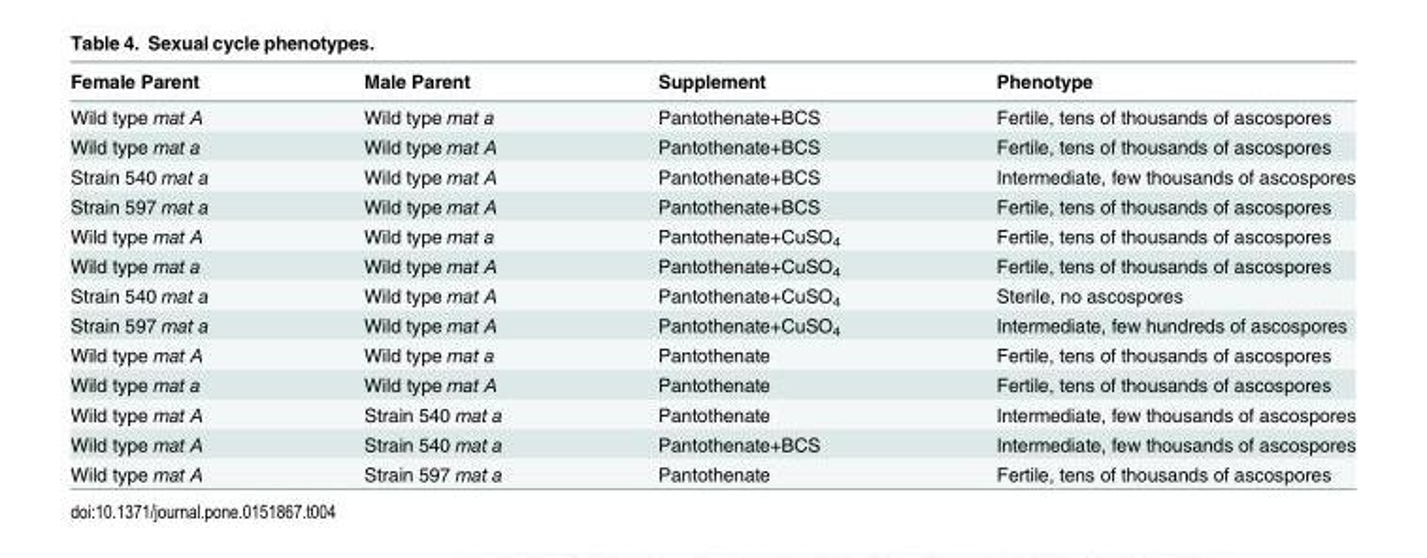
<table><thead><tr><td>Female Parent</td><td>Male Parent</td><td>Supplement</td><td>Phenotype</td></tr></thead><tbody><tr><td>Wild type mat A</td><td>Wild type mat a</td><td>Pantothenate+BCS</td><td>Fertile, tens of thousands of ascospores</td></tr><tr><td>Wild type mat a</td><td>Wild type mat A</td><td>Pantothenate+BCS</td><td>Fertile, tens of thousands of ascospores</td></tr><tr><td>Strain 540 mat a</td><td>Wild type mat A</td><td>Pantothenate+BCS</td><td>Intermediate, few thousands of ascospores</td></tr><tr><td>Strain 597 mat a</td><td>Wild type mat A</td><td>Pantothenate+BCS</td><td>Fertile, tens of thousands of ascospores</td></tr><tr><td>Wild type mat A</td><td>Wild type mat a</td><td>Pantothenate+CuSO<sub>4</sub></td><td>Fertile, tens of thousands of ascospores</td></tr><tr><td>Wild type mat a</td><td>Wild type mat A</td><td>Pantothenate+CuSO<sub>4</sub></td><td>Fertile, tens of thousands of ascospores</td></tr><tr><td>Strain 540 mat a</td><td>Wild type mat A</td><td>Pantothenate+CuSO<sub>4</sub></td><td>Sterile, no ascospores</td></tr><tr><td>Strain 597 mat a</td><td>Wild type mat A</td><td>Pantothenate+CuSO<sub>4</sub></td><td>Intermediate, few hundreds of ascospores</td></tr><tr><td>Wild type mat A</td><td>Wild type mat a</td><td>Pantothenate</td><td>Fertile, tens of thousands of ascospores</td></tr><tr><td>Wild type mat a</td><td>Wild type mat A</td><td>Pantothenate</td><td>Fertile, tens of thousands of ascospores</td></tr><tr><td>Wild type mat A</td><td>Strain 540 mat a</td><td>Pantothenate</td><td>Intermediate, few thousands of ascospores</td></tr><tr><td>Wild type mat A</td><td>Strain 540 mat a</td><td>Pantothenate+BCS</td><td>Intermediate, few thousands of ascospores</td></tr><tr><td>Wild type mat A</td><td>Strain 597 mat a</td><td>Pantothenate</td><td>Fertile, tens of thousands of ascospores</td></tr></tbody></table>